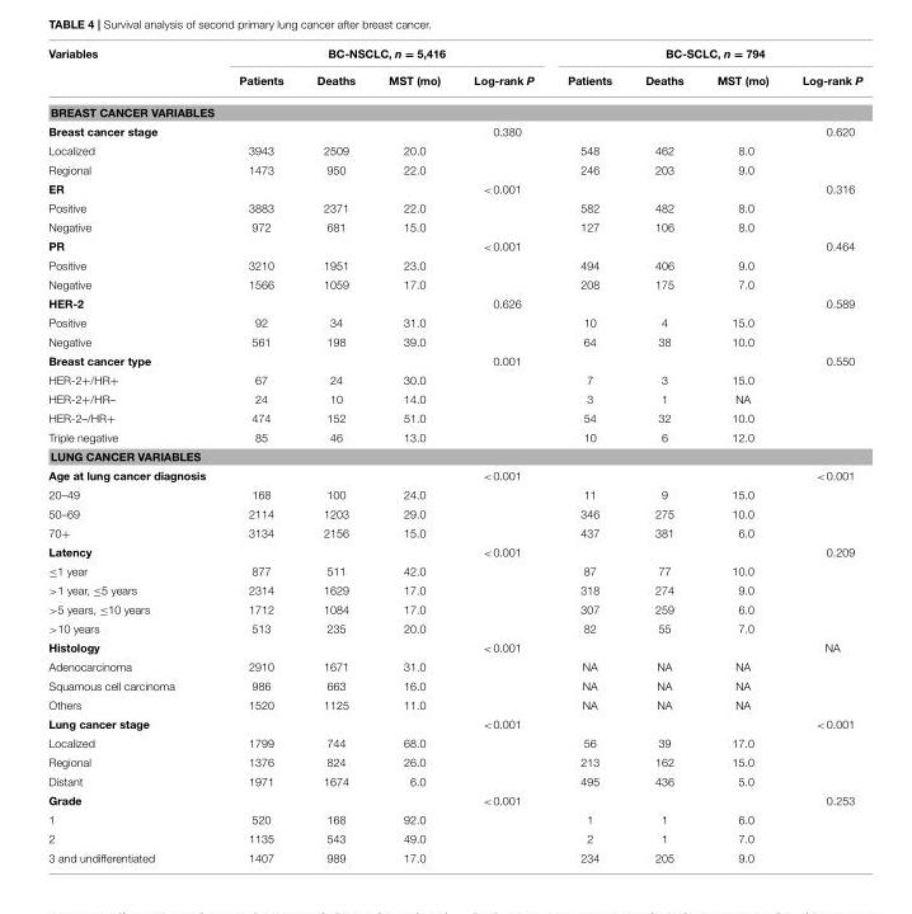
<table><thead><tr><td rowspan="2">Variables</td><td colspan="4">BC-NSCLC, n = 5,416</td><td colspan="4">BC-SCLC, n = 794</td></tr><tr><td>Patients</td><td>Deaths</td><td>MST (mo)</td><td>Log-rank P</td><td>Patients</td><td>Deaths</td><td>MST (mo)</td><td>Log-rank P</td></tr></thead><tbody><tr><td colspan="9">BREAST CANCER VARIABLES</td></tr><tr><td>Breast cancer stage</td><td></td><td></td><td></td><td>0.380</td><td></td><td></td><td></td><td>0.620</td></tr><tr><td>Localized</td><td>3943</td><td>2509</td><td>20.0</td><td></td><td>548</td><td>462</td><td>8.0</td><td></td></tr><tr><td>Regional</td><td>1473</td><td>950</td><td>22.0</td><td></td><td>246</td><td>203</td><td>9.0</td><td></td></tr><tr><td>ER</td><td></td><td></td><td></td><td>&lt;0.001</td><td></td><td></td><td></td><td>0.316</td></tr><tr><td>Positive</td><td>3883</td><td>2371</td><td>22.0</td><td></td><td>582</td><td>482</td><td>8.0</td><td></td></tr><tr><td>Negative</td><td>972</td><td>681</td><td>15.0</td><td></td><td>127</td><td>106</td><td>8.0</td><td></td></tr><tr><td>PR</td><td></td><td></td><td></td><td>&lt;0.001</td><td></td><td></td><td></td><td>0.464</td></tr><tr><td>Positive</td><td>3210</td><td>1951</td><td>23.0</td><td></td><td>494</td><td>406</td><td>9.0</td><td></td></tr><tr><td>Negative</td><td>1566</td><td>1059</td><td>17.0</td><td></td><td>208</td><td>175</td><td>7.0</td><td></td></tr><tr><td>HER-2</td><td></td><td></td><td></td><td>0.626</td><td></td><td></td><td></td><td>0.589</td></tr><tr><td>Positive</td><td>92</td><td>34</td><td>31.0</td><td></td><td>10</td><td>4</td><td>15.0</td><td></td></tr><tr><td>Negative</td><td>561</td><td>198</td><td>39.0</td><td></td><td>64</td><td>38</td><td>10.0</td><td></td></tr><tr><td>Breast cancer type</td><td></td><td></td><td></td><td>0.001</td><td></td><td></td><td></td><td>0.550</td></tr><tr><td>HER-2+/HR+</td><td>67</td><td>24</td><td>30.0</td><td></td><td>7</td><td>3</td><td>15.0</td><td></td></tr><tr><td>HER-2+/HR–</td><td>24</td><td>10</td><td>14.0</td><td></td><td>3</td><td>1</td><td>NA</td><td></td></tr><tr><td>HER-2–/HR+</td><td>474</td><td>152</td><td>51.0</td><td></td><td>54</td><td>32</td><td>10.0</td><td></td></tr><tr><td>Triple negative</td><td>85</td><td>46</td><td>13.0</td><td></td><td>10</td><td>6</td><td>12.0</td><td></td></tr><tr><td colspan="9">LUNG CANCER VARIABLES</td></tr><tr><td>Age at lung cancer diagnosis</td><td></td><td></td><td></td><td>&lt;0.001</td><td></td><td></td><td></td><td>&lt;0.001</td></tr><tr><td>20–49</td><td>168</td><td>100</td><td>24.0</td><td></td><td>11</td><td>9</td><td>15.0</td><td></td></tr><tr><td>50–69</td><td>2114</td><td>1203</td><td>29.0</td><td></td><td>346</td><td>275</td><td>10.0</td><td></td></tr><tr><td>70+</td><td>3134</td><td>2156</td><td>15.0</td><td></td><td>437</td><td>381</td><td>6.0</td><td></td></tr><tr><td>Latency</td><td></td><td></td><td></td><td>&lt;0.001</td><td></td><td></td><td></td><td>0.209</td></tr><tr><td>≤1 year</td><td>877</td><td>511</td><td>42.0</td><td></td><td>87</td><td>77</td><td>10.0</td><td></td></tr><tr><td>&gt;1 year, ≤5 years</td><td>2314</td><td>1629</td><td>17.0</td><td></td><td>318</td><td>274</td><td>9.0</td><td></td></tr><tr><td>&gt;5 years, ≤10 years</td><td>1712</td><td>1084</td><td>17.0</td><td></td><td>307</td><td>259</td><td>6.0</td><td></td></tr><tr><td>&gt;10 years</td><td>513</td><td>235</td><td>20.0</td><td></td><td>82</td><td>55</td><td>7.0</td><td></td></tr><tr><td>Histology</td><td></td><td></td><td></td><td>&lt;0.001</td><td></td><td></td><td></td><td>NA</td></tr><tr><td>Adenocarcinoma</td><td>2910</td><td>1671</td><td>31.0</td><td></td><td>NA</td><td>NA</td><td>NA</td><td></td></tr><tr><td>Squamous cell carcinoma</td><td>986</td><td>663</td><td>16.0</td><td></td><td>NA</td><td>NA</td><td>NA</td><td></td></tr><tr><td>Others</td><td>1520</td><td>1125</td><td>11.0</td><td></td><td>NA</td><td>NA</td><td>NA</td><td></td></tr><tr><td>Lung cancer stage</td><td></td><td></td><td></td><td>&lt;0.001</td><td></td><td></td><td></td><td>&lt;0.001</td></tr><tr><td>Localized</td><td>1799</td><td>744</td><td>68.0</td><td></td><td>56</td><td>39</td><td>17.0</td><td></td></tr><tr><td>Regional</td><td>1376</td><td>824</td><td>26.0</td><td></td><td>213</td><td>162</td><td>15.0</td><td></td></tr><tr><td>Distant</td><td>1971</td><td>1674</td><td>6.0</td><td></td><td>495</td><td>436</td><td>5.0</td><td></td></tr><tr><td>Grade</td><td></td><td></td><td></td><td>&lt;0.001</td><td></td><td></td><td></td><td>0.253</td></tr><tr><td>1</td><td>520</td><td>168</td><td>92.0</td><td></td><td>1</td><td>1</td><td>6.0</td><td></td></tr><tr><td>2</td><td>1135</td><td>543</td><td>49.0</td><td></td><td>2</td><td>1</td><td>7.0</td><td></td></tr><tr><td>3 and undifferentiated</td><td>1407</td><td>989</td><td>17.0</td><td></td><td>234</td><td>205</td><td>9.0</td><td></td></tr></tbody></table>